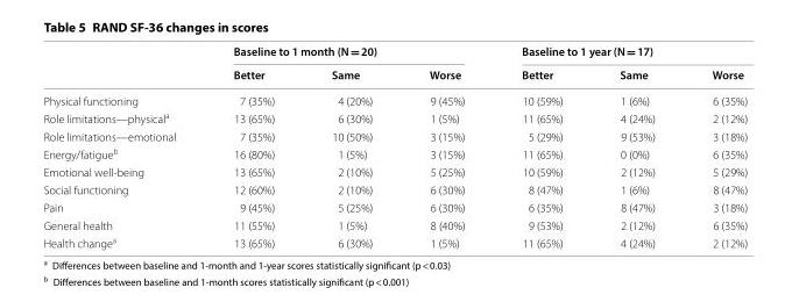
<table><thead><tr><td rowspan="2"></td><td colspan="3">Baseline to 1 month (N = 20)</td><td colspan="3">Baseline to 1 year (N = 17)</td></tr><tr><td>Better</td><td>Same</td><td>Worse</td><td>Better</td><td>Same</td><td>Worse</td></tr></thead><tbody><tr><td>Physical functioning</td><td>7 (35%)</td><td>4 (20%)</td><td>9 (45%)</td><td>10 (59%)</td><td>1 (6%)</td><td>6 (35%)</td></tr><tr><td>Role limitations—physical<sup>a</sup></td><td>13 (65%)</td><td>6 (30%)</td><td>1 (5%)</td><td>11 (65%)</td><td>4 (24%)</td><td>2 (12%)</td></tr><tr><td>Role limitations—emotional</td><td>7 (35%)</td><td>10 (50%)</td><td>3 (15%)</td><td>5 (29%)</td><td>9 (53%)</td><td>3 (18%)</td></tr><tr><td>Energy/fatigue<sup>b</sup></td><td>16 (80%)</td><td>1 (5%)</td><td>3 (15%)</td><td>11 (65%)</td><td>0 (0%)</td><td>6 (35%)</td></tr><tr><td>Emotional well-being</td><td>13 (65%)</td><td>2 (10%)</td><td>5 (25%)</td><td>10 (59%)</td><td>2 (12%)</td><td>5 (29%)</td></tr><tr><td>Social functioning</td><td>12 (60%)</td><td>2 (10%)</td><td>6 (30%)</td><td>8 (47%)</td><td>1 (6%)</td><td>8 (47%)</td></tr><tr><td>Pain</td><td>9 (45%)</td><td>5 (25%)</td><td>6 (30%)</td><td>6 (35%)</td><td>8 (47%)</td><td>3 (18%)</td></tr><tr><td>General health</td><td>11 (55%)</td><td>1 (5%)</td><td>8 (40%)</td><td>9 (53%)</td><td>2 (12%)</td><td>6 (35%)</td></tr><tr><td>Health change<sup>a</sup></td><td>13 (65%)</td><td>6 (30%)</td><td>1 (5%)</td><td>11 (65%)</td><td>4 (24%)</td><td>2 (12%)</td></tr></tbody></table>